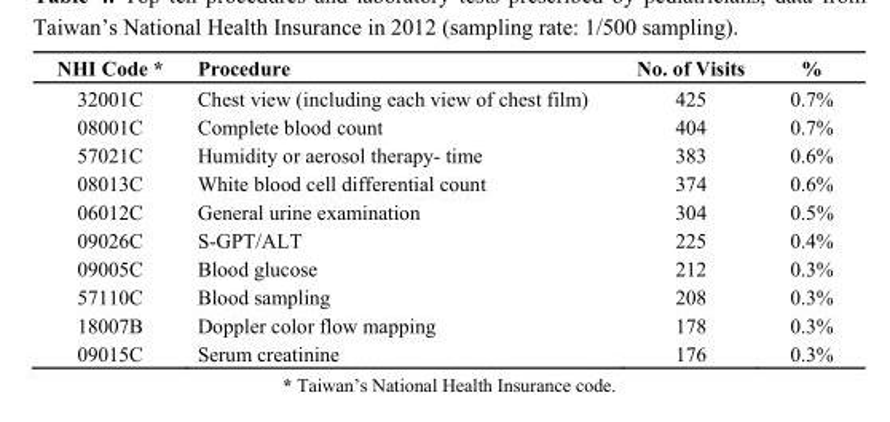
<table><thead><tr><td>NHI Code *</td><td>Procedure</td><td>No. of Visits</td><td>%</td></tr></thead><tbody><tr><td>32001C</td><td>Chest view (including each view of chest film)</td><td>425</td><td>0.7%</td></tr><tr><td>08001C</td><td>Complete blood count</td><td>404</td><td>0.7%</td></tr><tr><td>57021C</td><td>Humidity or aerosol therapy- time</td><td>383</td><td>0.6%</td></tr><tr><td>08013C</td><td>White blood cell differential count</td><td>374</td><td>0.6%</td></tr><tr><td>06012C</td><td>General urine examination</td><td>304</td><td>0.5%</td></tr><tr><td>09026C</td><td>S-GPT/ALT</td><td>225</td><td>0.4%</td></tr><tr><td>09005C</td><td>Blood glucose</td><td>212</td><td>0.3%</td></tr><tr><td>57110C</td><td>Blood sampling</td><td>208</td><td>0.3%</td></tr><tr><td>18007B</td><td>Doppler color flow mapping</td><td>178</td><td>0.3%</td></tr><tr><td>09015C</td><td>Serum creatinine</td><td>176</td><td>0.3%</td></tr></tbody></table>